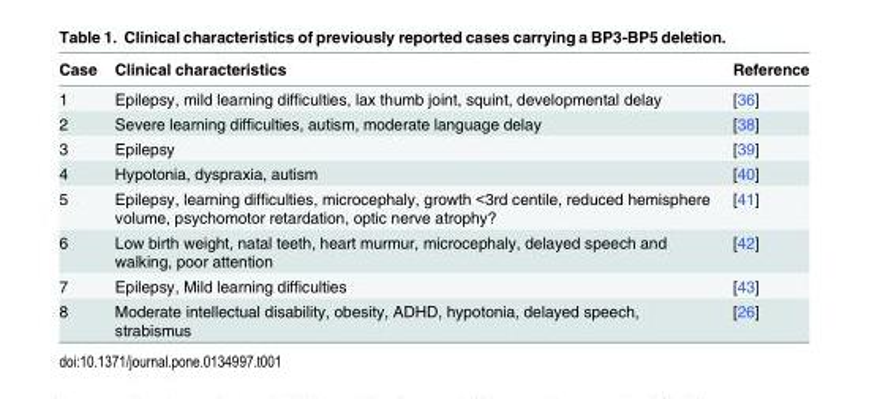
<table><thead><tr><td>Case</td><td>Clinical characteristics</td><td>Reference</td></tr></thead><tbody><tr><td>1</td><td>Epilepsy, mild learning difficulties, lax thumb joint, squint, developmental delay</td><td>[36]</td></tr><tr><td>2</td><td>Severe learning difficulties, autism, moderate language delay</td><td>[38]</td></tr><tr><td>3</td><td>Epilepsy</td><td>[39]</td></tr><tr><td>4</td><td>Hypotonia, dyspraxia, autism</td><td>[40]</td></tr><tr><td>5</td><td>Epilepsy, learning difficulties, microcephaly, growth &lt;3rd centile, reduced hemisphere volume, psychomotor retardation, optic nerve atrophy?</td><td>[41]</td></tr><tr><td>6</td><td>Low birth weight, natal teeth, heart murmur, microcephaly, delayed speech and walking, poor attention</td><td>[42]</td></tr><tr><td>7</td><td>Epilepsy, Mild learning difficulties</td><td>[43]</td></tr><tr><td>8</td><td>Moderate intellectual disability, obesity, ADHD, hypotonia, delayed speech, strabismus</td><td>[26]</td></tr></tbody></table>